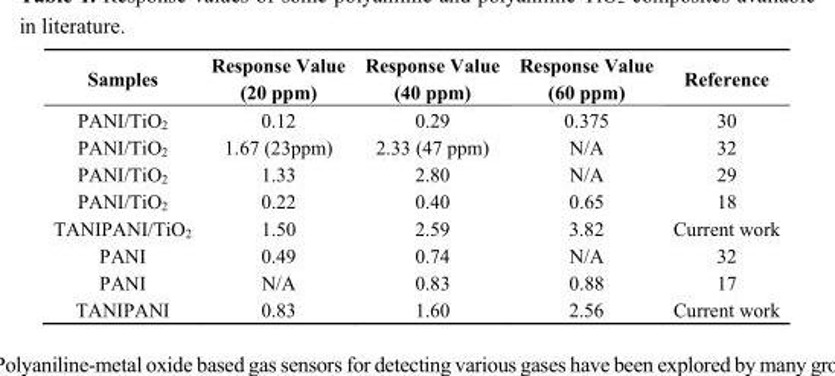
<table><thead><tr><td>Samples</td><td>Response Value (20 ppm)</td><td>Response Value (40 ppm)</td><td>Response Value (60 ppm)</td><td>Reference</td></tr></thead><tbody><tr><td>PANI/TiO<sub>2</sub></td><td>0.12</td><td>0.29</td><td>0.375</td><td>30</td></tr><tr><td>PANI/TiO<sub>2</sub></td><td>1.67 (23ppm)</td><td>2.33 (47 ppm)</td><td>N/A</td><td>32</td></tr><tr><td>PANI/TiO<sub>2</sub></td><td>1.33</td><td>2.80</td><td>N/A</td><td>29</td></tr><tr><td>PANI/TiO<sub>2</sub></td><td>0.22</td><td>0.40</td><td>0.65</td><td>18</td></tr><tr><td>TANIPANI/TiO<sub>2</sub></td><td>1.50</td><td>2.59</td><td>3.82</td><td>Current work</td></tr><tr><td>PANI</td><td>0.49</td><td>0.74</td><td>N/A</td><td>32</td></tr><tr><td>PANI</td><td>N/A</td><td>0.83</td><td>0.88</td><td>17</td></tr><tr><td>TANIPANI</td><td>0.83</td><td>1.60</td><td>2.56</td><td>Current work</td></tr></tbody></table>